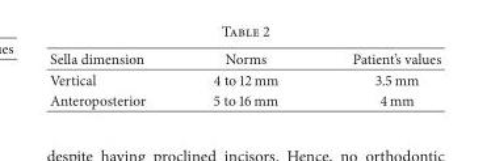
<table><thead><tr><td>Sella dimension</td><td>Norms</td><td>Patient’s values</td></tr></thead><tbody><tr><td>Vertical</td><td>4 to 12 mm</td><td>3.5 mm</td></tr><tr><td>Anteroposterior</td><td>5 to 16 mm</td><td>4 mm</td></tr></tbody></table>